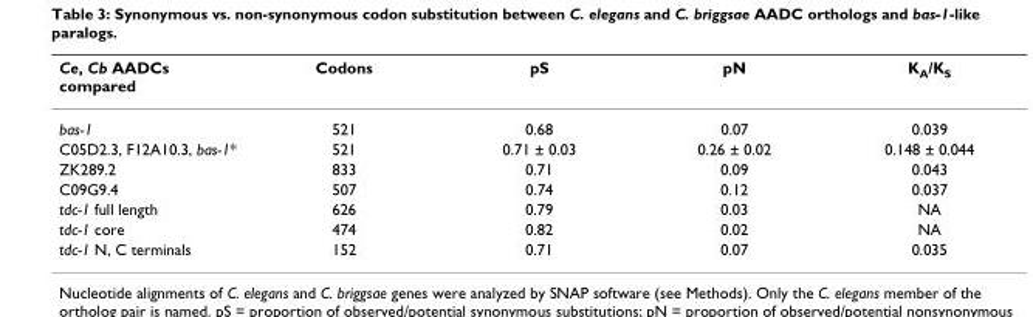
<table><thead><tr><td>Ce, Cb AADCs compared</td><td>Codons</td><td>pS</td><td>pN</td><td>K<sub>A</sub>/K<sub>S</sub></td></tr></thead><tbody><tr><td>bas-1</td><td>521</td><td>0.68</td><td>0.07</td><td>0.039</td></tr><tr><td>C05D2.3, F12A10.3, bas-1*</td><td>521</td><td>0.71 ± 0.03</td><td>0.26 ± 0.02</td><td>0.148 ± 0.044</td></tr><tr><td>ZK289.2</td><td>833</td><td>0.71</td><td>0.09</td><td>0.043</td></tr><tr><td>C09G9.4</td><td>507</td><td>0.74</td><td>0.12</td><td>0.037</td></tr><tr><td>tdc-1 full length</td><td>626</td><td>0.79</td><td>0.03</td><td>NA</td></tr><tr><td>tdc-1 core</td><td>474</td><td>0.82</td><td>0.02</td><td>NA</td></tr><tr><td>tdc-1 N, C terminals</td><td>152</td><td>0.71</td><td>0.07</td><td>0.035</td></tr></tbody></table>